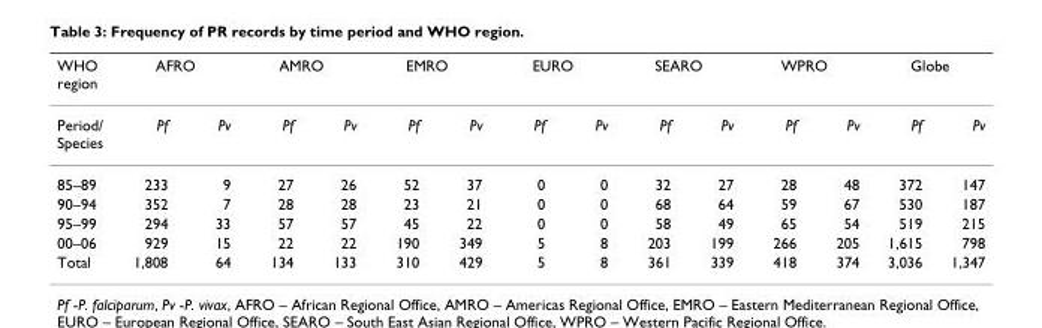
<table><thead><tr><td rowspan="2">WHO region Period/ Species</td><td colspan="2">AFRO</td><td colspan="2">AMRO</td><td colspan="2">EMRO</td><td colspan="2">EURO</td><td colspan="2">SEARO</td><td colspan="2">WPRO</td><td colspan="2">Globe</td></tr><tr><td>Pf</td><td>Pv</td><td>Pf</td><td>Pv</td><td>Pf</td><td>Pv</td><td>Pf</td><td>Pv</td><td>Pf</td><td>Pv</td><td>Pf</td><td>Pv</td><td>Pf</td><td>Pv</td></tr></thead><tbody><tr><td>85–89</td><td>233</td><td>9</td><td>27</td><td>26</td><td>52</td><td>37</td><td>0</td><td>0</td><td>32</td><td>27</td><td>28</td><td>48</td><td>372</td><td>147</td></tr><tr><td>90–94</td><td>352</td><td>7</td><td>28</td><td>28</td><td>23</td><td>21</td><td>0</td><td>0</td><td>68</td><td>64</td><td>59</td><td>67</td><td>530</td><td>187</td></tr><tr><td>95–99</td><td>294</td><td>33</td><td>57</td><td>57</td><td>45</td><td>22</td><td>0</td><td>0</td><td>58</td><td>49</td><td>65</td><td>54</td><td>519</td><td>215</td></tr><tr><td>00–06</td><td>929</td><td>15</td><td>22</td><td>22</td><td>190</td><td>349</td><td>5</td><td>8</td><td>203</td><td>199</td><td>266</td><td>205</td><td>1,615</td><td>798</td></tr><tr><td>Total</td><td>1,808</td><td>64</td><td>134</td><td>133</td><td>310</td><td>429</td><td>5</td><td>8</td><td>361</td><td>339</td><td>418</td><td>374</td><td>3,036</td><td>1,347</td></tr></tbody></table>